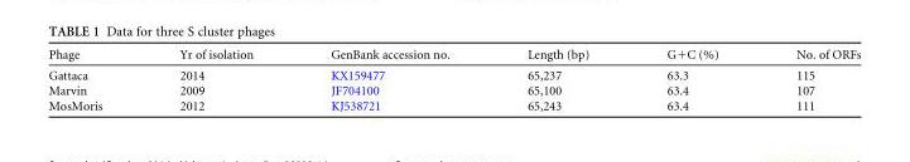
<table><thead><tr><td>Phage</td><td>Yr of isolation</td><td>GenBank accession no.</td><td>Length (bp)</td><td>G+C (%)</td><td>No. of ORFs</td></tr></thead><tbody><tr><td>Gattaca</td><td>2014</td><td>KX159477</td><td>65,237</td><td>63.3</td><td>115</td></tr><tr><td>Marvin</td><td>2009</td><td>JF704100</td><td>65,100</td><td>63.4</td><td>107</td></tr><tr><td>MosMoris</td><td>2012</td><td>KJ538721</td><td>65,243</td><td>63.4</td><td>111</td></tr></tbody></table>